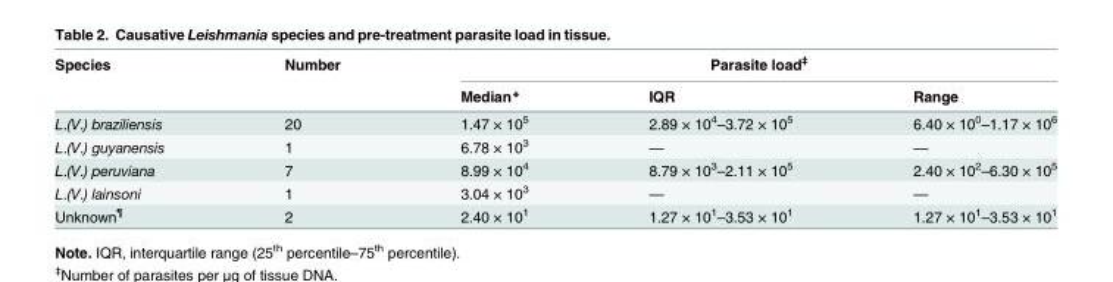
<table><thead><tr><td rowspan="2">Species</td><td rowspan="2">Number</td><td colspan="3">Parasite load<sup>‡</sup></td></tr><tr><td>Median*</td><td>IQR</td><td>Range</td></tr></thead><tbody><tr><td>L.(V.) braziliensis</td><td>20</td><td>1.47 × 10<sup>5</sup></td><td>2.89 × 10<sup>4</sup>–3.72 × 10<sup>5</sup></td><td>6.40 × 10<sup>0</sup>–1.17 × 10<sup>6</sup></td></tr><tr><td>L.(V.) guyanensis</td><td>1</td><td>6.78 × 10<sup>3</sup></td><td>—</td><td>—</td></tr><tr><td>L.(V.) peruviana</td><td>7</td><td>8.99 × 10<sup>4</sup></td><td>8.79 × 10<sup>3</sup>–2.11 × 10<sup>5</sup></td><td>2.40 × 10<sup>2</sup>–6.30 × 10<sup>5</sup></td></tr><tr><td>L.(V.) lainsoni</td><td>1</td><td>3.04 × 10<sup>3</sup></td><td>—</td><td>—</td></tr><tr><td>Unknown<sup>¶</sup></td><td>2</td><td>2.40 × 10<sup>1</sup></td><td>1.27 × 10<sup>1</sup>–3.53 × 10<sup>1</sup></td><td>1.27 × 10<sup>1</sup>–3.53 × 10<sup>1</sup></td></tr></tbody></table>